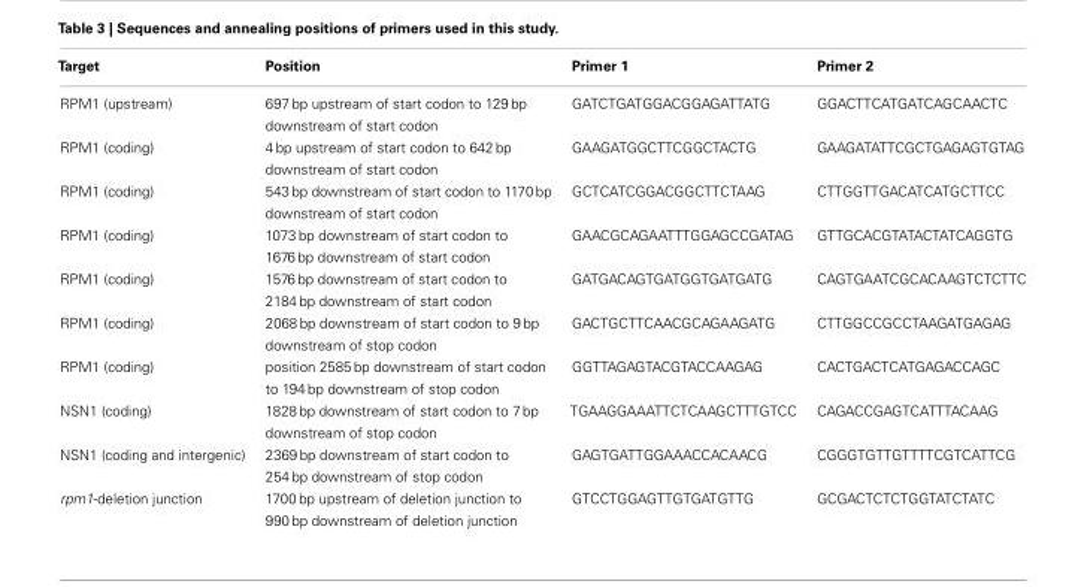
<table><thead><tr><td>Target</td><td>Position</td><td>Primer 1</td><td>Primer 2</td></tr></thead><tbody><tr><td>RPM1 (upstream)</td><td>697 bp upstream of start codon to 129 bp downstream of start codon</td><td>GATCTGATGGACGGAGATTATG</td><td>GGACTTCATGATCAGCAACTC</td></tr><tr><td>RPM1 (coding)</td><td>4 bp upstream of start codon to 642 bp downstream of start codon</td><td>GAAGATGGCTTCGGCTACTG</td><td>GAAGATATTCGCTGAGAGTGTAG</td></tr><tr><td>RPM1 (coding)</td><td>543 bp downstream of start codon to 1170 bp downstream of start codon</td><td>GCTCATCGGACGGCTTCTAAG</td><td>CTTGGTTGACATCATGCTTCC</td></tr><tr><td>RPM1 (coding)</td><td>1073 bp downstream of start codon to 1676 bp downstream of start codon</td><td>GAACGCAGAATTTGGAGCCGATAG</td><td>GTTGCACGTATACTATCAGGTG</td></tr><tr><td>RPM1 (coding)</td><td>1576 bp downstream of start codon to 2184 bp downstream of start codon</td><td>GATGACAGTGATGGTGATGATG</td><td>CAGTGAATCGCACAAGTCTCTTC</td></tr><tr><td>RPM1 (coding)</td><td>2068 bp downstream of start codon to 9 bp downstream of stop codon</td><td>GACTGCTTCAACGCAGAAGATG</td><td>CTTGGCCGCCTAAGATGAGAG</td></tr><tr><td>RPM1 (coding)</td><td>position 2585 bp downstream of start codon to 194 bp downstream of stop codon</td><td>GGTTAGAGTACGTACCAAGAG</td><td>CACTGACTCATGAGACCAGC</td></tr><tr><td>NSN1 (coding)</td><td>1828 bp downstream of start codon to 7 bp downstream of stop codon</td><td>TGAAGGAAATTCTCAAGCTTTGTCC</td><td>CAGACCGAGTCATTTACAAG</td></tr><tr><td>NSN1 (coding and intergenic)</td><td>2369 bp downstream of start codon to 254 bp downstream of stop codon</td><td>GAGTGATTGGAAACCACAACG</td><td>CGGGTGTTGTTTTCGTCATTCG</td></tr><tr><td>rpm1-deletion junction</td><td>1700 bp upstream of deletion junction to 990 bp downstream of deletion junction</td><td>GTCCTGGAGTTGTGATGTTG</td><td>GCGACTCTCTGGTATCTATC</td></tr></tbody></table>